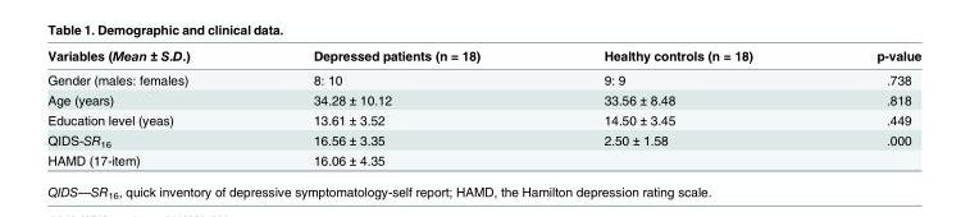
<table><thead><tr><td>Variables (Mean ± S.D.)</td><td>Depressed patients (n = 18)</td><td>Healthy controls (n = 18)</td><td>p-value</td></tr></thead><tbody><tr><td>Gender (males: females)</td><td>8: 10</td><td>9: 9</td><td>.738</td></tr><tr><td>Age (years)</td><td>34.28 ± 10.12</td><td>33.56 ± 8.48</td><td>.818</td></tr><tr><td>Education level (yeas)</td><td>13.61 ± 3.52</td><td>14.50 ± 3.45</td><td>.449</td></tr><tr><td>QIDS-SR<sub>16</sub></td><td>16.56 ± 3.35</td><td>2.50 ± 1.58</td><td>.000</td></tr><tr><td>HAMD (17-item)</td><td>16.06 ± 4.35</td><td></td><td></td></tr></tbody></table>